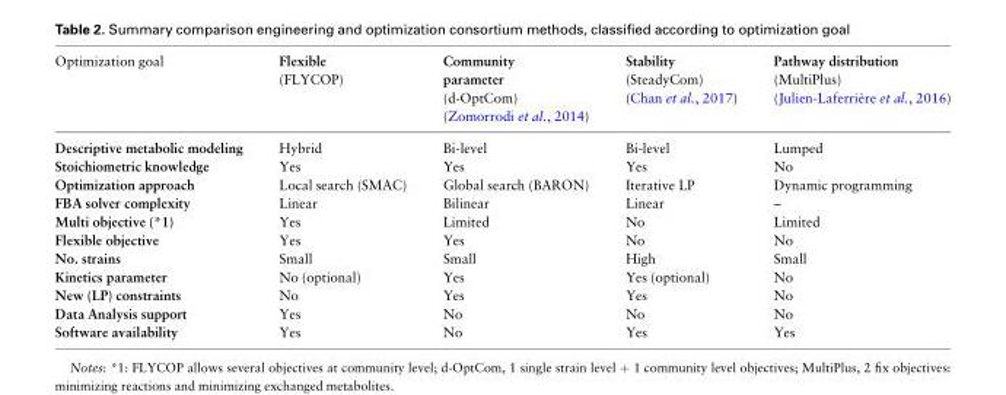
<table><thead><tr><td>Optimization goal</td><td>Flexible (FLYCOP)</td><td>Community parameter (d-OptCom) (Zomorrodi et al., 2014)</td><td>Stability (SteadyCom) (Chan et al., 2017)</td><td>Pathway distribution (MultiPlus) (Julien-Laferrie`re et al., 2016)</td></tr></thead><tbody><tr><td>Descriptive metabolic modeling</td><td>Hybrid</td><td>Bi-level</td><td>Bi-level</td><td>Lumped</td></tr><tr><td>Stoichiometric knowledge</td><td>Yes</td><td>Yes</td><td>Yes</td><td>No</td></tr><tr><td>Optimization approach</td><td>Local search (SMAC)</td><td>Global search (BARON)</td><td>Iterative LP</td><td>Dynamic programming</td></tr><tr><td>FBA solver complexity</td><td>Linear</td><td>Bilinear</td><td>Linear</td><td>–</td></tr><tr><td>Multi objective (*1)</td><td>Yes</td><td>Limited</td><td>No</td><td>Limited</td></tr><tr><td>Flexible objective</td><td>Yes</td><td>Yes</td><td>No</td><td>No</td></tr><tr><td>No. strains</td><td>Small</td><td>Small</td><td>High</td><td>Small</td></tr><tr><td>Kinetics parameter</td><td>No (optional)</td><td>Yes</td><td>Yes (optional)</td><td>No</td></tr><tr><td>New (LP) constraints</td><td>No</td><td>Yes</td><td>Yes</td><td>No</td></tr><tr><td>Data Analysis support</td><td>Yes</td><td>No</td><td>No</td><td>No</td></tr><tr><td>Software availability</td><td>Yes</td><td>No</td><td>Yes</td><td>Yes</td></tr></tbody></table>